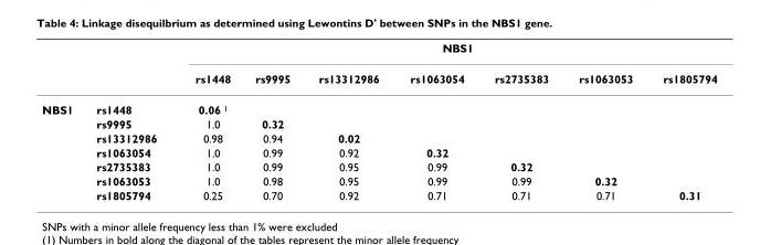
<table><thead><tr><td rowspan="2"></td><td rowspan="2"></td><td colspan="7">NBS1</td></tr><tr><td>rs1448</td><td>rs9995</td><td>rs13312986</td><td>rs1063054</td><td>rs2735383</td><td>rs1063053</td><td>rs1805794</td></tr></thead><tbody><tr><td rowspan="7">NBS1</td><td>rs1448</td><td>0.06 <sup>1</sup></td><td></td><td></td><td></td><td></td><td></td><td></td></tr><tr><td>rs9995</td><td>1.0</td><td>0.32</td><td></td><td></td><td></td><td></td><td></td></tr><tr><td>rs13312986</td><td>0.98</td><td>0.94</td><td>0.02</td><td></td><td></td><td></td><td></td></tr><tr><td>rs1063054</td><td>1.0</td><td>0.99</td><td>0.92</td><td>0.32</td><td></td><td></td><td></td></tr><tr><td>rs2735383</td><td>1.0</td><td>0.99</td><td>0.95</td><td>0.99</td><td>0.32</td><td></td><td></td></tr><tr><td>rs1063053</td><td>1.0</td><td>0.98</td><td>0.95</td><td>0.99</td><td>0.99</td><td>0.32</td><td></td></tr><tr><td>rs1805794</td><td>0.25</td><td>0.70</td><td>0.92</td><td>0.71</td><td>0.71</td><td>0.71</td><td>0.31</td></tr></tbody></table>